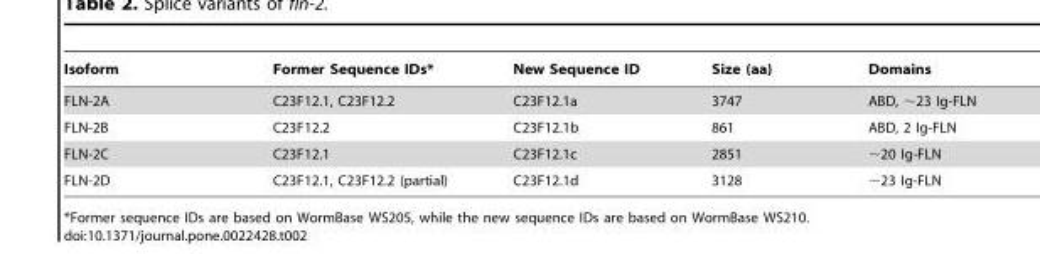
<table><thead><tr><td>Isoform</td><td>Former Sequence IDs*</td><td>New Sequence ID</td><td>Size (aa)</td><td>Domains</td></tr></thead><tbody><tr><td>FLN-2A</td><td>C23F12.1, C23F12.2</td><td>C23F12.1a</td><td>3747</td><td>ABD, ∼23 Ig-FLN</td></tr><tr><td>FLN-2B</td><td>C23F12.2</td><td>C23F12.1b</td><td>861</td><td>ABD, 2 Ig-FLN</td></tr><tr><td>FLN-2C</td><td>C23F12.1</td><td>C23F12.1c</td><td>2851</td><td>∼20 Ig-FLN</td></tr><tr><td>FLN-2D</td><td>C23F12.1, C23F12.2 (partial)</td><td>C23F12.1d</td><td>3128</td><td>∼23 Ig-FLN</td></tr></tbody></table>